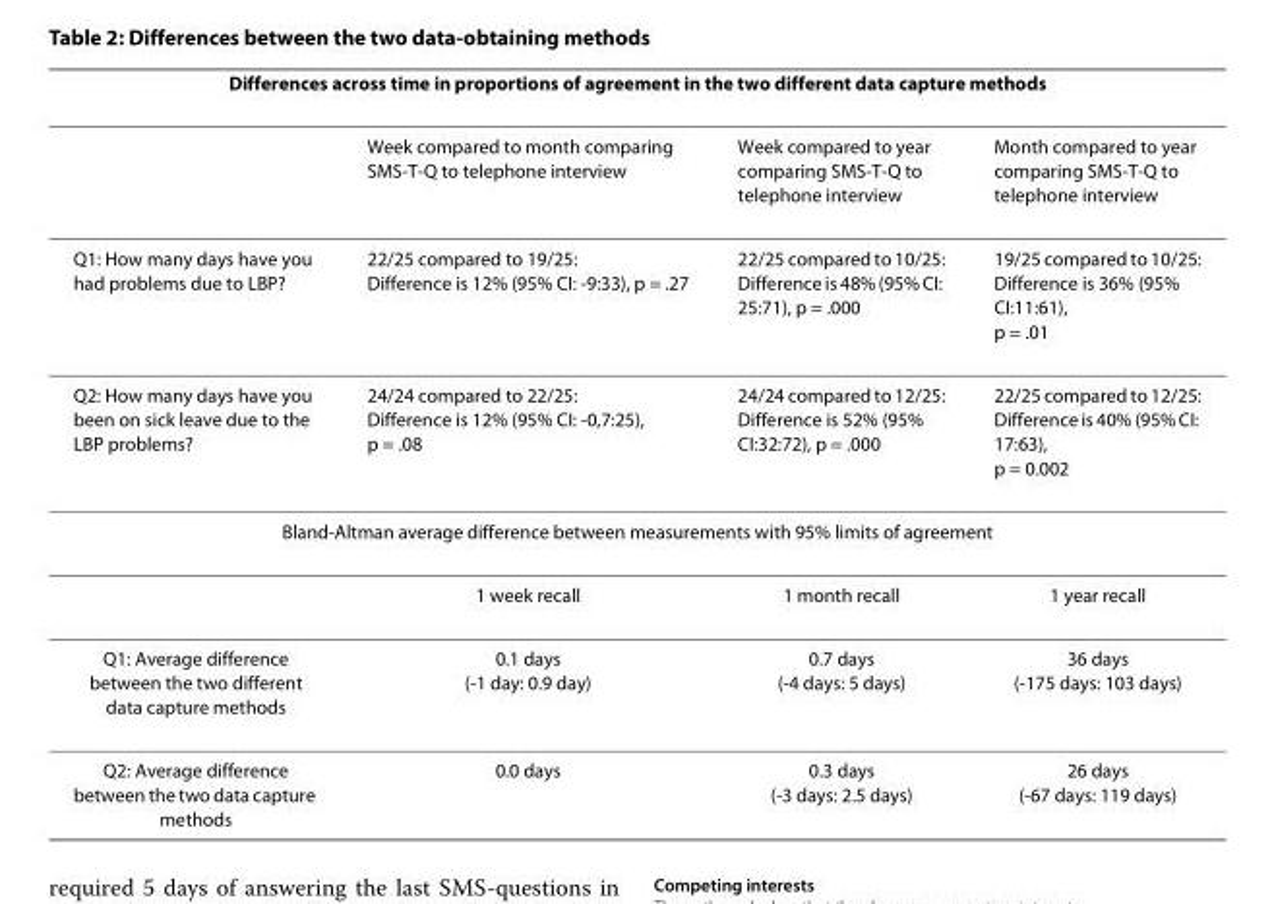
<table><thead><tr><td colspan="4">Differences across time in proportions of agreement in the two different data capture methods</td></tr><tr><td></td><td>Week compared to month comparing SMS-T-Q to telephone interview</td><td>Week compared to year comparing SMS-T-Q to telephone interview</td><td>Month compared to year comparing SMS-T-Q to telephone interview</td></tr></thead><tbody><tr><td>Q1: How many days have you had problems due to LBP?</td><td>22/25 compared to 19/25: Difference is 12% (95% CI: -9:33), p = .27</td><td>22/25 compared to 10/25: Difference is 48% (95% CI: 25:71), p = .000</td><td>19/25 compared to 10/25: Difference is 36% (95% CI:11:61), p = .01</td></tr><tr><td>Q2: How many days have you been on sick leave due to the LBP problems?</td><td>24/24 compared to 22/25: Difference is 12% (95% CI: -0,7:25), p = .08</td><td>24/24 compared to 12/25: Difference is 52% (95% CI:32:72), p = .000</td><td>22/25 compared to 12/25: Difference is 40% (95% CI: 17:63), p = 0.002</td></tr><tr><td colspan="4">Bland-Altman average difference between measurements with 95% limits of agreement</td></tr><tr><td></td><td>1 week recall</td><td>1 month recall</td><td>1 year recall</td></tr><tr><td>Q1: Average difference between the two different data capture methods</td><td>0.1 days (-1 day: 0.9 day)</td><td>0.7 days (-4 days: 5 days)</td><td>36 days (-175 days: 103 days)</td></tr><tr><td>Q2: Average difference between the two data capture methods</td><td>0.0 days</td><td>0.3 days (-3 days: 2.5 days)</td><td>26 days (-67 days: 119 days)</td></tr></tbody></table>